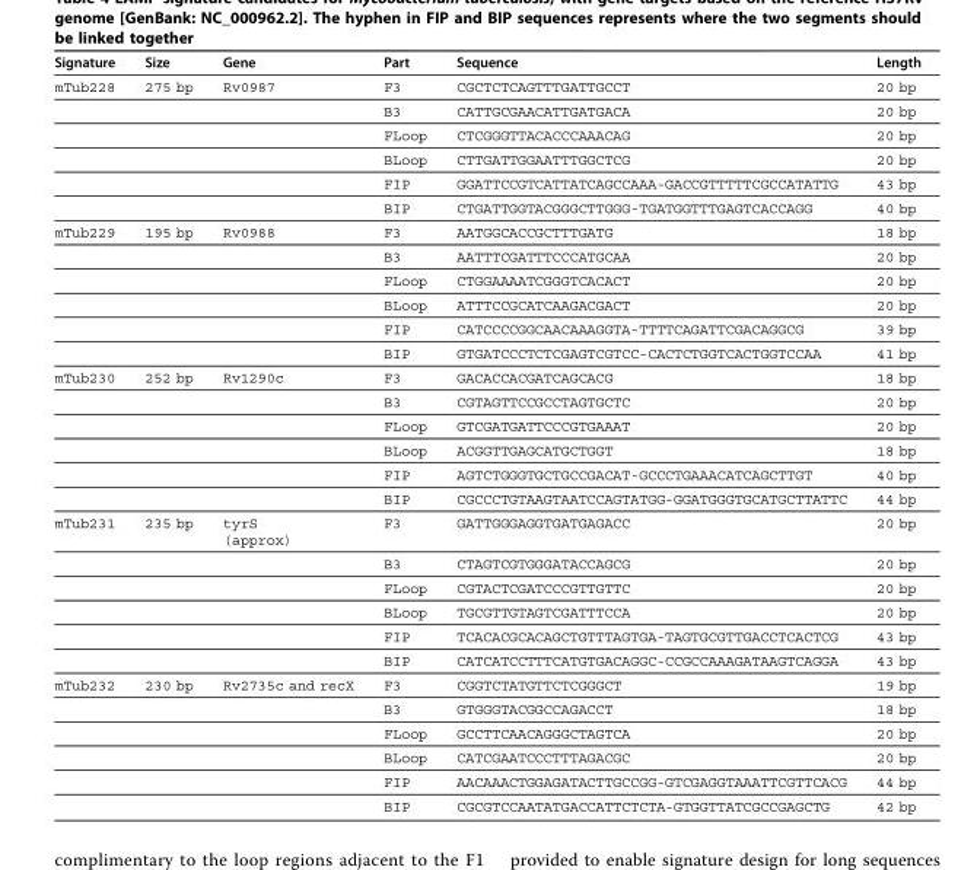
<table><thead><tr><td>Signature</td><td>Size</td><td>Gene</td><td>Part</td><td>Sequence</td><td>Length</td></tr></thead><tbody><tr><td rowspan="6">mTub228</td><td>275 bp</td><td>Rv0987</td><td>F3</td><td>CGCTCTCAGTTTGATTGCCT</td><td>20 bp</td></tr><tr><td></td><td></td><td>B3</td><td>CATTGCGAACATTGATGACA</td><td>20 bp</td></tr><tr><td></td><td></td><td>FLoop</td><td>CTCGGGTTACACCCAAACAG</td><td>20 bp</td></tr><tr><td></td><td></td><td>BLoop</td><td>CTTGATTGGAATTTGGCTCG</td><td>20 bp</td></tr><tr><td></td><td></td><td>FIP</td><td>GGATTCCGTCATTATCAGCCAAA-GACCGTTTTTCGCCATATTG</td><td>43 bp</td></tr><tr><td></td><td></td><td>BIP</td><td>CTGATTGGTACGGGCTTGGG-TGATGGTTTGAGTCACCAGG</td><td>40 bp</td></tr><tr><td rowspan="6">mTub229</td><td>195 bp</td><td>Rv0988</td><td>F3</td><td>AATGGCACCGCTTTGATG</td><td>18 bp</td></tr><tr><td></td><td></td><td>B3</td><td>AATTTCGATTTCCCATGCAA</td><td>20 bp</td></tr><tr><td></td><td></td><td>FLoop</td><td>CTGGAAAATCGGGTCACACT</td><td>20 bp</td></tr><tr><td></td><td></td><td>BLoop</td><td>ATTTCCGCATCAAGACGACT</td><td>20 bp</td></tr><tr><td></td><td></td><td>FIP</td><td>CATCCCCGGCAACAAAGGTA-TTTTCAGATTCGACAGGCG</td><td>39 bp</td></tr><tr><td></td><td></td><td>BIP</td><td>GTGATCCCTCTCGAGTCGTCC-CACTCTGGTCACTGGTCCAA</td><td>41 bp</td></tr><tr><td rowspan="6">mTub230</td><td>252 bp</td><td>Rv1290c</td><td>F3</td><td>GACACCACGATCAGCACG</td><td>18 bp</td></tr><tr><td></td><td></td><td>B3</td><td>CGTAGTTCCGCCTAGTGCTC</td><td>20 bp</td></tr><tr><td></td><td></td><td>FLoop</td><td>GTCGATGATTCCCGTGAAAT</td><td>20 bp</td></tr><tr><td></td><td></td><td>BLoop</td><td>ACGGTTGAGCATGCTGGT</td><td>18 bp</td></tr><tr><td></td><td></td><td>FIP</td><td>AGTCTGGGTGCTGCCGACAT-GCCCTGAAACATCAGCTTGT</td><td>40 bp</td></tr><tr><td></td><td></td><td>BIP</td><td>CGCCCTGTAAGTAATCCAGTATGG-GGATGGGTGCATGCTTATTC</td><td>44 bp</td></tr><tr><td rowspan="6">mTub231</td><td>235 bp</td><td>tyrS (approx)</td><td>F3</td><td>GATTGGGAGGTGATGAGACC</td><td>20 bp</td></tr><tr><td></td><td></td><td>B3</td><td>CTAGTCGTGGGATACCAGCG</td><td>20 bp</td></tr><tr><td></td><td></td><td>FLoop</td><td>CGTACTCGATCCCGTTGTTC</td><td>20 bp</td></tr><tr><td></td><td></td><td>BLoop</td><td>TGCGTTGTAGTCGATTTCCA</td><td>20 bp</td></tr><tr><td></td><td></td><td>FIP</td><td>TCACACGCACAGCTGTTTAGTGA-TAGTGCGTTGACCTCACTCG</td><td>43 bp</td></tr><tr><td></td><td></td><td>BIP</td><td>CATCATCCTTTCATGTGACAGGC-CCGCCAAAGATAAGTCAGGA</td><td>43 bp</td></tr><tr><td rowspan="6">mTub232</td><td>230 bp</td><td>Rv2735c and recX</td><td>F3</td><td>CGGTCTATGTTCTCGGGCT</td><td>19 bp</td></tr><tr><td></td><td></td><td>B3</td><td>GTGGGTACGGCCAGACCT</td><td>18 bp</td></tr><tr><td></td><td></td><td>FLoop</td><td>GCCTTCAACAGGGCTAGTCA</td><td>20 bp</td></tr><tr><td></td><td></td><td>BLoop</td><td>CATCGAATCCCTTTAGACGC</td><td>20 bp</td></tr><tr><td></td><td></td><td>FIP</td><td>AACAAACTGGAGATACTTGCCGG-GTCGAGGTAAATTCGTTCACG</td><td>44 bp</td></tr><tr><td></td><td></td><td>BIP</td><td>CGCGTCCAATATGACCATTCTCTA-GTGGTTATCGCCGAGCTG</td><td>42 bp</td></tr></tbody></table>